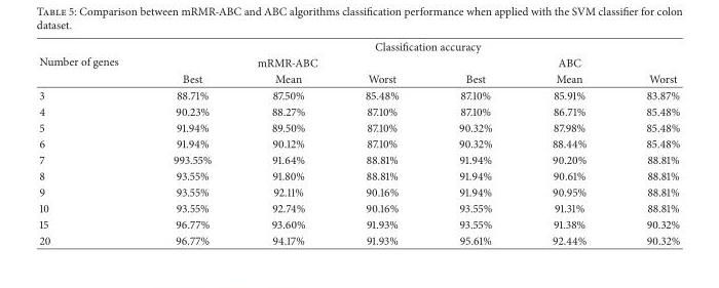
<table><thead><tr><td rowspan="3">Number of genes</td><td colspan="6">Classification accuracy</td></tr><tr><td colspan="3">mRMR-ABC</td><td colspan="3">ABC</td></tr><tr><td>Best</td><td>Mean</td><td>Worst</td><td>Best</td><td>Mean</td><td>Worst</td></tr></thead><tbody><tr><td>3</td><td>88.71%</td><td>87.50%</td><td>85.48%</td><td>87.10%</td><td>85.91%</td><td>83.87%</td></tr><tr><td>4</td><td>90.23%</td><td>88.27%</td><td>87.10%</td><td>87.10%</td><td>86.71%</td><td>85.48%</td></tr><tr><td>5</td><td>91.94%</td><td>89.50%</td><td>87.10%</td><td>90.32%</td><td>87.98%</td><td>85.48%</td></tr><tr><td>6</td><td>91.94%</td><td>90.12%</td><td>87.10%</td><td>90.32%</td><td>88.44%</td><td>85.48%</td></tr><tr><td>7</td><td>993.55%</td><td>91.64%</td><td>88.81%</td><td>91.94%</td><td>90.20%</td><td>88.81%</td></tr><tr><td>8</td><td>93.55%</td><td>91.80%</td><td>88.81%</td><td>91.94%</td><td>90.61%</td><td>88.81%</td></tr><tr><td>9</td><td>93.55%</td><td>92.11%</td><td>90.16%</td><td>91.94%</td><td>90.95%</td><td>88.81%</td></tr><tr><td>10</td><td>93.55%</td><td>92.74%</td><td>90.16%</td><td>93.55%</td><td>91.31%</td><td>88.81%</td></tr><tr><td>15</td><td>96.77%</td><td>93.60%</td><td>91.93%</td><td>93.55%</td><td>91.38%</td><td>90.32%</td></tr><tr><td>20</td><td>96.77%</td><td>94.17%</td><td>91.93%</td><td>95.61%</td><td>92.44%</td><td>90.32%</td></tr></tbody></table>